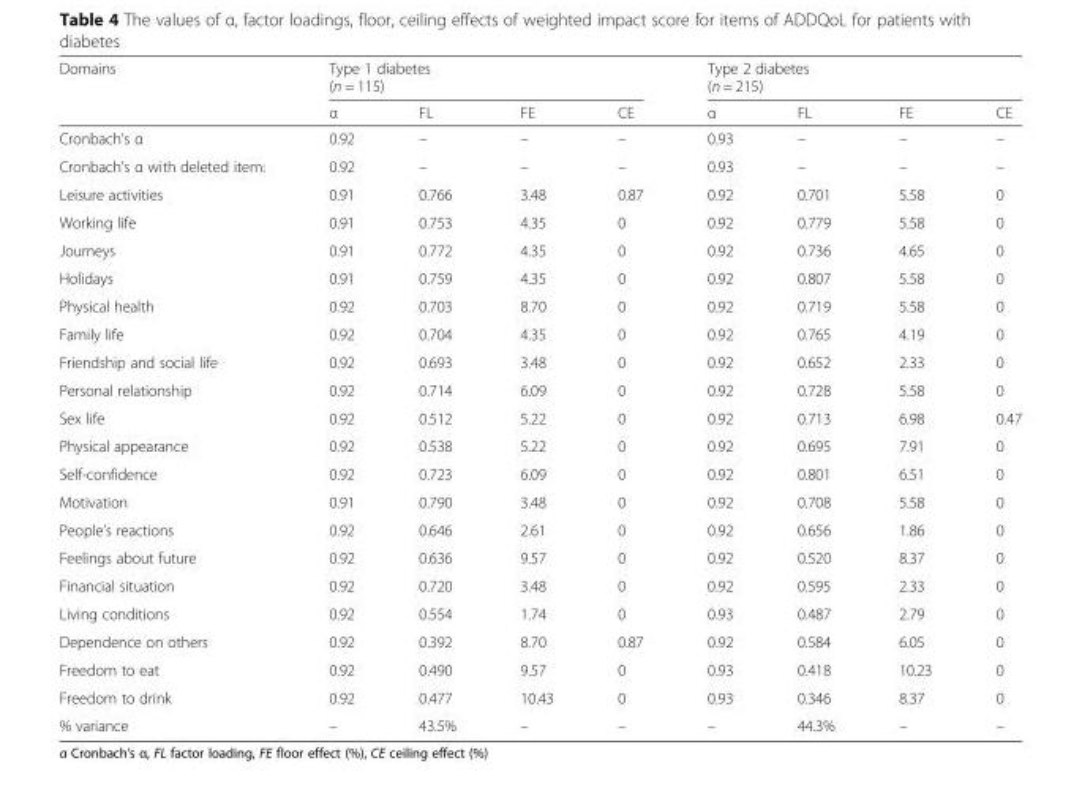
<table><thead><tr><td rowspan="2">Domains</td><td colspan="4">Type 1 diabetes (n = 115)</td><td colspan="4">Type 2 diabetes (n = 215)</td></tr><tr><td>α</td><td>FL</td><td>FE</td><td>CE</td><td>α</td><td>FL</td><td>FE</td><td>CE</td></tr></thead><tbody><tr><td>Cronbach’s α</td><td>0.92</td><td>–</td><td>–</td><td>–</td><td>0.93</td><td>–</td><td>–</td><td>–</td></tr><tr><td>Cronbach’s α with deleted item:</td><td>0.92</td><td>–</td><td>–</td><td>–</td><td>0.93</td><td>–</td><td>–</td><td>–</td></tr><tr><td>Leisure activities</td><td>0.91</td><td>0.766</td><td>3.48</td><td>0.87</td><td>0.92</td><td>0.701</td><td>5.58</td><td>0</td></tr><tr><td>Working life</td><td>0.91</td><td>0.753</td><td>4.35</td><td>0</td><td>0.92</td><td>0.779</td><td>5.58</td><td>0</td></tr><tr><td>Journeys</td><td>0.91</td><td>0.772</td><td>4.35</td><td>0</td><td>0.92</td><td>0.736</td><td>4.65</td><td>0</td></tr><tr><td>Holidays</td><td>0.91</td><td>0.759</td><td>4.35</td><td>0</td><td>0.92</td><td>0.807</td><td>5.58</td><td>0</td></tr><tr><td>Physical health</td><td>0.92</td><td>0.703</td><td>8.70</td><td>0</td><td>0.92</td><td>0.719</td><td>5.58</td><td>0</td></tr><tr><td>Family life</td><td>0.92</td><td>0.704</td><td>4.35</td><td>0</td><td>0.92</td><td>0.765</td><td>4.19</td><td>0</td></tr><tr><td>Friendship and social life</td><td>0.92</td><td>0.693</td><td>3.48</td><td>0</td><td>0.92</td><td>0.652</td><td>2.33</td><td>0</td></tr><tr><td>Personal relationship</td><td>0.92</td><td>0.714</td><td>6.09</td><td>0</td><td>0.92</td><td>0.728</td><td>5.58</td><td>0</td></tr><tr><td>Sex life</td><td>0.92</td><td>0.512</td><td>5.22</td><td>0</td><td>0.92</td><td>0.713</td><td>6.98</td><td>0.47</td></tr><tr><td>Physical appearance</td><td>0.92</td><td>0.538</td><td>5.22</td><td>0</td><td>0.92</td><td>0.695</td><td>7.91</td><td>0</td></tr><tr><td>Self-confidence</td><td>0.92</td><td>0.723</td><td>6.09</td><td>0</td><td>0.92</td><td>0.801</td><td>6.51</td><td>0</td></tr><tr><td>Motivation</td><td>0.91</td><td>0.790</td><td>3.48</td><td>0</td><td>0.92</td><td>0.708</td><td>5.58</td><td>0</td></tr><tr><td>People’s reactions</td><td>0.92</td><td>0.646</td><td>2.61</td><td>0</td><td>0.92</td><td>0.656</td><td>1.86</td><td>0</td></tr><tr><td>Feelings about future</td><td>0.92</td><td>0.636</td><td>9.57</td><td>0</td><td>0.92</td><td>0.520</td><td>8.37</td><td>0</td></tr><tr><td>Financial situation</td><td>0.92</td><td>0.720</td><td>3.48</td><td>0</td><td>0.92</td><td>0.595</td><td>2.33</td><td>0</td></tr><tr><td>Living conditions</td><td>0.92</td><td>0.554</td><td>1.74</td><td>0</td><td>0.93</td><td>0.487</td><td>2.79</td><td>0</td></tr><tr><td>Dependence on others</td><td>0.92</td><td>0.392</td><td>8.70</td><td>0.87</td><td>0.92</td><td>0.584</td><td>6.05</td><td>0</td></tr><tr><td>Freedom to eat</td><td>0.92</td><td>0.490</td><td>9.57</td><td>0</td><td>0.93</td><td>0.418</td><td>10.23</td><td>0</td></tr><tr><td>Freedom to drink</td><td>0.92</td><td>0.477</td><td>10.43</td><td>0</td><td>0.93</td><td>0.346</td><td>8.37</td><td>0</td></tr><tr><td>% variance</td><td>–</td><td>43.5%</td><td>–</td><td>–</td><td>–</td><td>44.3%</td><td>–</td><td>–</td></tr></tbody></table>